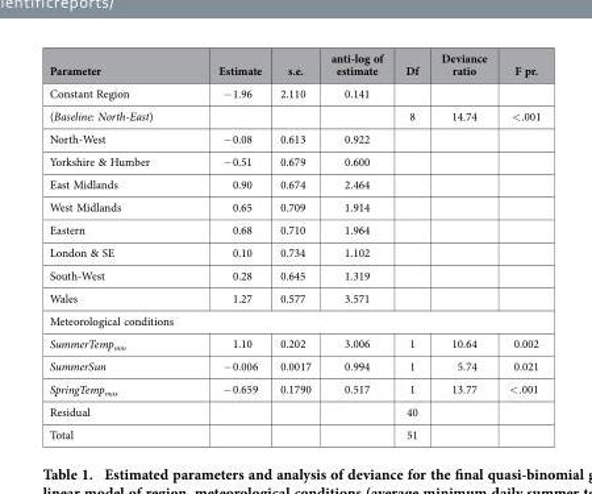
<table><thead><tr><td>Parameter</td><td>Estimate</td><td>s.e.</td><td>anti-log of estimate</td><td>Df</td><td>Deviance ratio</td><td>F pr.</td></tr></thead><tbody><tr><td>Constant Region</td><td>− 1.96</td><td>2.110</td><td>0.141</td><td></td><td></td><td></td></tr><tr><td>(Baseline: North-East)</td><td></td><td></td><td></td><td>8</td><td>14.74</td><td>&lt; .001</td></tr><tr><td>North-West</td><td>− 0.08</td><td>0.613</td><td>0.922</td><td></td><td></td><td></td></tr><tr><td>Yorkshire &amp; Humber</td><td>− 0.51</td><td>0.679</td><td>0.600</td><td></td><td></td><td></td></tr><tr><td>East Midlands</td><td>0.90</td><td>0.674</td><td>2.464</td><td></td><td></td><td></td></tr><tr><td>West Midlands</td><td>0.65</td><td>0.709</td><td>1.914</td><td></td><td></td><td></td></tr><tr><td>Eastern</td><td>0.68</td><td>0.710</td><td>1.964</td><td></td><td></td><td></td></tr><tr><td>London &amp; SE</td><td>0.10</td><td>0.734</td><td>1.102</td><td></td><td></td><td></td></tr><tr><td>South-West</td><td>0.28</td><td>0.645</td><td>1.319</td><td></td><td></td><td></td></tr><tr><td>Wales</td><td>1.27</td><td>0.577</td><td>3.571</td><td></td><td></td><td></td></tr><tr><td colspan="7">Meteorological conditions</td></tr><tr><td>SummerTemp<sub>min</sub></td><td>1.10</td><td>0.202</td><td>3.006</td><td>1</td><td>10.64</td><td>0.002</td></tr><tr><td>SummerSun</td><td>− 0.006</td><td>0.0017</td><td>0.994</td><td>1</td><td>5.74</td><td>0.021</td></tr><tr><td>SpringTemp<sub>max</sub></td><td>− 0.659</td><td>0.1790</td><td>0.517</td><td>1</td><td>13.77</td><td>&lt; .001</td></tr><tr><td>Residual</td><td></td><td></td><td></td><td>40</td><td></td><td></td></tr><tr><td>Total</td><td></td><td></td><td></td><td>51</td><td></td><td></td></tr></tbody></table>